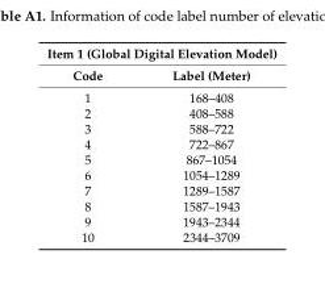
<table><thead><tr><td colspan="2">Item 1 (Global Digital Elevation Model)</td></tr><tr><td>Code</td><td>Label (Meter)</td></tr></thead><tbody><tr><td>1</td><td>168–408</td></tr><tr><td>2</td><td>408–588</td></tr><tr><td>3</td><td>588–722</td></tr><tr><td>4</td><td>722–867</td></tr><tr><td>5</td><td>867–1054</td></tr><tr><td>6</td><td>1054–1289</td></tr><tr><td>7</td><td>1289–1587</td></tr><tr><td>8</td><td>1587–1943</td></tr><tr><td>9</td><td>1943–2344</td></tr><tr><td>10</td><td>2344–3709</td></tr></tbody></table>